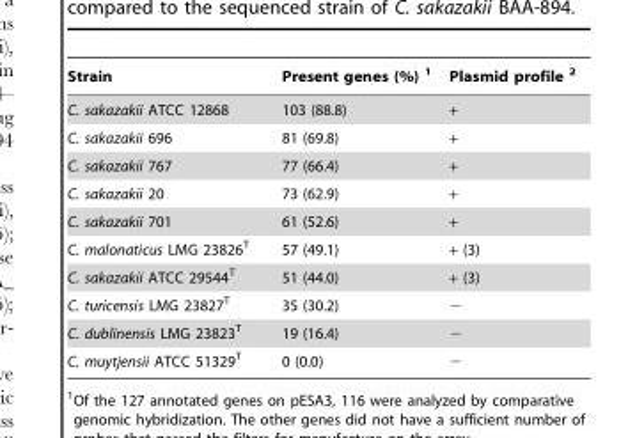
<table><thead><tr><td>Strain</td><td>Present genes (%) 1</td><td>Plasmid profile 2</td></tr></thead><tbody><tr><td>C. sakazakii ATCC 12868</td><td>103 (88.8)</td><td>+</td></tr><tr><td>C. sakazakii 696</td><td>81 (69.8)</td><td>+</td></tr><tr><td>C. sakazakii 767</td><td>77 (66.4)</td><td>+</td></tr><tr><td>C. sakazakii 20</td><td>73 (62.9)</td><td>+</td></tr><tr><td>C. sakazakii 701</td><td>61 (52.6)</td><td>+</td></tr><tr><td>C. malonaticus LMG 23826<sup>T</sup></td><td>57 (49.1)</td><td>+ (3)</td></tr><tr><td>C. sakazakii ATCC 29544<sup>T</sup></td><td>51 (44.0)</td><td>+ (3)</td></tr><tr><td>C. turicensis LMG 23827<sup>T</sup></td><td>35 (30.2)</td><td>−</td></tr><tr><td>C. dublinensis LMG 23823<sup>T</sup></td><td>19 (16.4)</td><td>−</td></tr><tr><td>C. muytjensii ATCC 51329<sup>T</sup></td><td>0 (0.0)</td><td>−</td></tr></tbody></table>